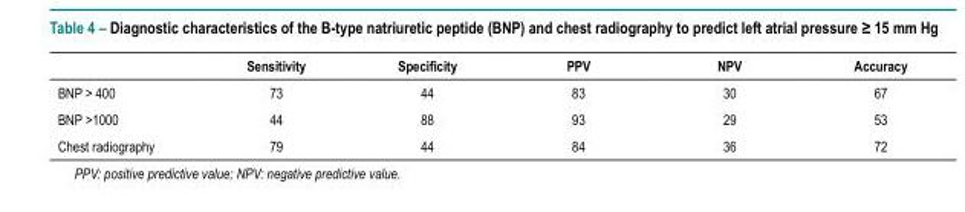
<table><thead><tr><td></td><td>Sensitivity</td><td>Specificity</td><td>PPV</td><td>NPV</td><td>Accuracy</td></tr></thead><tbody><tr><td>BNP &gt; 400</td><td>73</td><td>44</td><td>83</td><td>30</td><td>67</td></tr><tr><td>BNP &gt;1000</td><td>44</td><td>88</td><td>93</td><td>29</td><td>53</td></tr><tr><td>Chest radiography</td><td>79</td><td>44</td><td>84</td><td>36</td><td>72</td></tr></tbody></table>